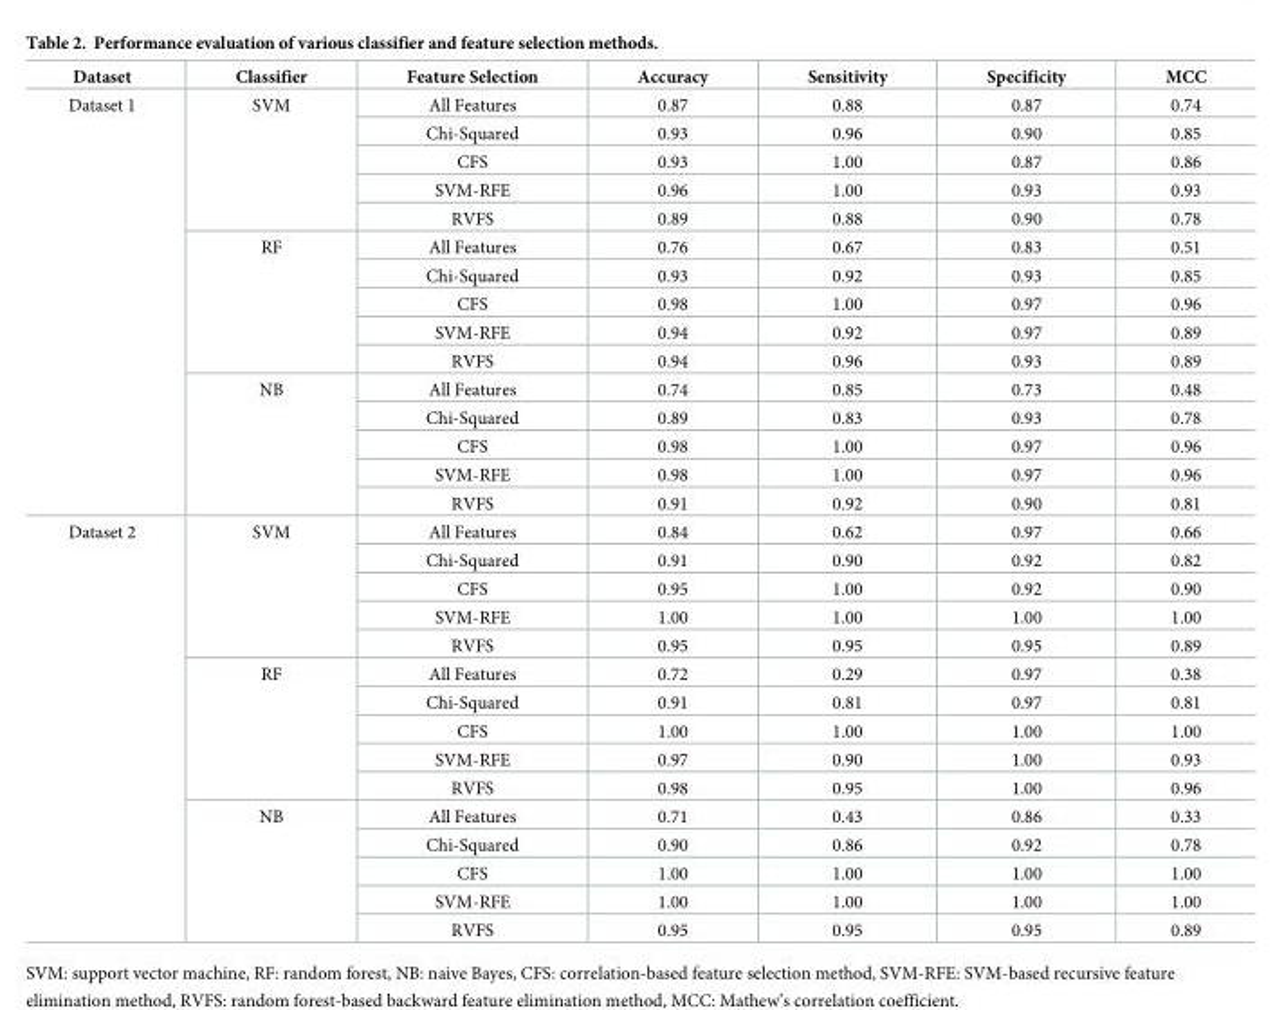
<table><thead><tr><td>Dataset</td><td>Classifier</td><td>Feature Selection</td><td>Accuracy</td><td>Sensitivity</td><td>Specificity</td><td>MCC</td></tr></thead><tbody><tr><td rowspan="15">Dataset 1</td><td rowspan="5">SVM</td><td>All Features</td><td>0.87</td><td>0.88</td><td>0.87</td><td>0.74</td></tr><tr><td>Chi-Squared</td><td>0.93</td><td>0.96</td><td>0.90</td><td>0.85</td></tr><tr><td>CFS</td><td>0.93</td><td>1.00</td><td>0.87</td><td>0.86</td></tr><tr><td>SVM-RFE</td><td>0.96</td><td>1.00</td><td>0.93</td><td>0.93</td></tr><tr><td>RVFS</td><td>0.89</td><td>0.88</td><td>0.90</td><td>0.78</td></tr><tr><td rowspan="5">RF</td><td>All Features</td><td>0.76</td><td>0.67</td><td>0.83</td><td>0.51</td></tr><tr><td>Chi-Squared</td><td>0.93</td><td>0.92</td><td>0.93</td><td>0.85</td></tr><tr><td>CFS</td><td>0.98</td><td>1.00</td><td>0.97</td><td>0.96</td></tr><tr><td>SVM-RFE</td><td>0.94</td><td>0.92</td><td>0.97</td><td>0.89</td></tr><tr><td>RVFS</td><td>0.94</td><td>0.96</td><td>0.93</td><td>0.89</td></tr><tr><td rowspan="5">NB</td><td>All Features</td><td>0.74</td><td>0.85</td><td>0.73</td><td>0.48</td></tr><tr><td>Chi-Squared</td><td>0.89</td><td>0.83</td><td>0.93</td><td>0.78</td></tr><tr><td>CFS</td><td>0.98</td><td>1.00</td><td>0.97</td><td>0.96</td></tr><tr><td>SVM-RFE</td><td>0.98</td><td>1.00</td><td>0.97</td><td>0.96</td></tr><tr><td>RVFS</td><td>0.91</td><td>0.92</td><td>0.90</td><td>0.81</td></tr><tr><td rowspan="15">Dataset 2</td><td rowspan="5">SVM</td><td>All Features</td><td>0.84</td><td>0.62</td><td>0.97</td><td>0.66</td></tr><tr><td>Chi-Squared</td><td>0.91</td><td>0.90</td><td>0.92</td><td>0.82</td></tr><tr><td>CFS</td><td>0.95</td><td>1.00</td><td>0.92</td><td>0.90</td></tr><tr><td>SVM-RFE</td><td>1.00</td><td>1.00</td><td>1.00</td><td>1.00</td></tr><tr><td>RVFS</td><td>0.95</td><td>0.95</td><td>0.95</td><td>0.89</td></tr><tr><td rowspan="5">RF</td><td>All Features</td><td>0.72</td><td>0.29</td><td>0.97</td><td>0.38</td></tr><tr><td>Chi-Squared</td><td>0.91</td><td>0.81</td><td>0.97</td><td>0.81</td></tr><tr><td>CFS</td><td>1.00</td><td>1.00</td><td>1.00</td><td>1.00</td></tr><tr><td>SVM-RFE</td><td>0.97</td><td>0.90</td><td>1.00</td><td>0.93</td></tr><tr><td>RVFS</td><td>0.98</td><td>0.95</td><td>1.00</td><td>0.96</td></tr><tr><td rowspan="5">NB</td><td>All Features</td><td>0.71</td><td>0.43</td><td>0.86</td><td>0.33</td></tr><tr><td>Chi-Squared</td><td>0.90</td><td>0.86</td><td>0.92</td><td>0.78</td></tr><tr><td>CFS</td><td>1.00</td><td>1.00</td><td>1.00</td><td>1.00</td></tr><tr><td>SVM-RFE</td><td>1.00</td><td>1.00</td><td>1.00</td><td>1.00</td></tr><tr><td>RVFS</td><td>0.95</td><td>0.95</td><td>0.95</td><td>0.89</td></tr></tbody></table>